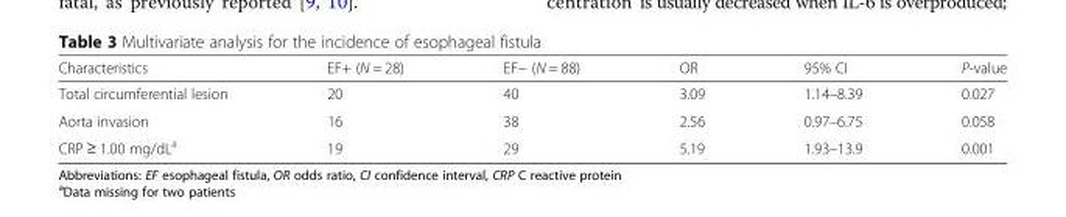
<table><thead><tr><td>Characteristics</td><td>EF+ (N = 28)</td><td>EF− (N = 88)</td><td>OR</td><td>95% CI</td><td>P-value</td></tr></thead><tbody><tr><td>Total circumferential lesion</td><td>20</td><td>40</td><td>3.09</td><td>1.14–8.39</td><td>0.027</td></tr><tr><td>Aorta invasion</td><td>16</td><td>38</td><td>2.56</td><td>0.97–6.75</td><td>0.058</td></tr><tr><td>CRP ≥ 1.00 mg/dL<sup>a</sup></td><td>19</td><td>29</td><td>5.19</td><td>1.93–13.9</td><td>0.001</td></tr></tbody></table>